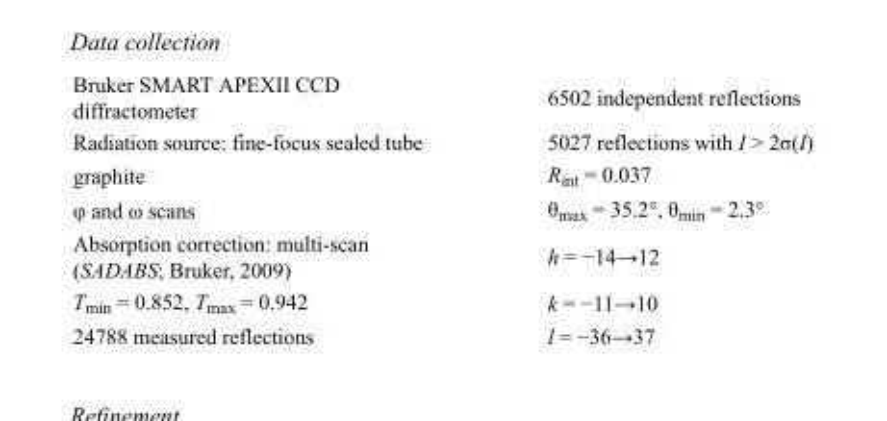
<table><tbody><tr><td>Bruker SMART APEXII CCD diffractometer</td><td>6502 independent reflections</td></tr><tr><td>Radiation source: fine-focus sealed tube</td><td>5027 reflections with I &gt; 2σ(I)</td></tr><tr><td>graphite</td><td>R<sub>int</sub> = 0.037</td></tr><tr><td>φ and ω scans</td><td>θ<sub>max</sub> = 35.2°, θ<sub>min</sub> = 2.3°</td></tr><tr><td>Absorption correction: multi-scan (SADABS; Bruker, 2009)</td><td>h = −14→12</td></tr><tr><td>T<sub>min</sub> = 0.852, T<sub>max</sub> = 0.942</td><td>k = −11→10</td></tr><tr><td>24788 measured reflections</td><td>l = −36→37</td></tr></tbody></table>